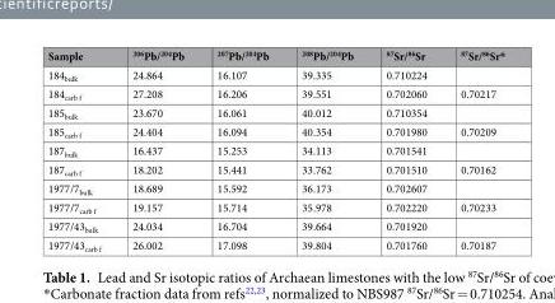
<table><thead><tr><td>Sample</td><td><sup>206</sup>Pb/<sup>204</sup>Pb</td><td><sup>207</sup>Pb/<sup>204</sup>Pb</td><td><sup>208</sup>Pb/<sup>204</sup>Pb</td><td><sup>87</sup>Sr/<sup>86</sup>Sr</td><td><sup>87</sup>Sr/<sup>86</sup>Sr*</td></tr></thead><tbody><tr><td>184<sub>bulk</sub></td><td>24.864</td><td>16.107</td><td>39.335</td><td>0.710224</td><td></td></tr><tr><td>184<sub>carb f</sub></td><td>27.208</td><td>16.206</td><td>39.551</td><td>0.702060</td><td>0.70217</td></tr><tr><td>185<sub>bulk</sub></td><td>23.670</td><td>16.061</td><td>40.012</td><td>0.710354</td><td></td></tr><tr><td>185<sub>carb f</sub></td><td>24.404</td><td>16.094</td><td>40.354</td><td>0.701980</td><td>0.70209</td></tr><tr><td>187<sub>bulk</sub></td><td>16.437</td><td>15.253</td><td>34.113</td><td>0.701541</td><td></td></tr><tr><td>187<sub>carb f</sub></td><td>18.202</td><td>15.441</td><td>33.762</td><td>0.701510</td><td>0.70162</td></tr><tr><td>1977/7<sub>bulk</sub></td><td>18.689</td><td>15.592</td><td>36.173</td><td>0.702607</td><td></td></tr><tr><td>1977/7<sub>carb f</sub></td><td>19.157</td><td>15.714</td><td>35.978</td><td>0.702220</td><td>0.70233</td></tr><tr><td>1977/43<sub>bulk</sub></td><td>24.034</td><td>16.704</td><td>39.664</td><td>0.701920</td><td></td></tr><tr><td>1977/43<sub>carb f</sub></td><td>26.002</td><td>17.098</td><td>39.804</td><td>0.701760</td><td>0.70187</td></tr></tbody></table>